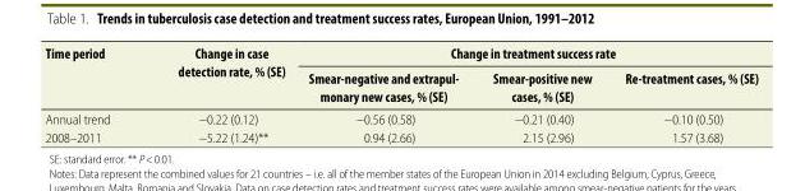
<table><thead><tr><td rowspan="2">Time period</td><td rowspan="2">Change in case detection rate, % (SE)</td><td colspan="3">Change in treatment success rate</td></tr><tr><td>Smear-negative and extrapul- monary new cases, % (SE)</td><td>Smear-positive new cases, % (SE)</td><td>Re-treatment cases, % (SE)</td></tr></thead><tbody><tr><td>Annual trend</td><td>−0.22 (0.12)</td><td>−0.56 (0.58)</td><td>−0.21 (0.40)</td><td>−0.10 (0.50)</td></tr><tr><td>2008–2011</td><td>−5.22 (1.24)**</td><td>0.94 (2.66)</td><td>2.15 (2.96)</td><td>1.57 (3.68)</td></tr></tbody></table>